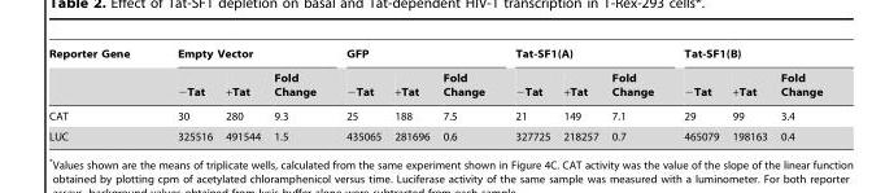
<table><thead><tr><td rowspan="2">Reporter Gene</td><td colspan="3">Empty Vector</td><td colspan="3">GFP</td><td colspan="3">Tat-SF1(A)</td><td colspan="3">Tat-SF1(B)</td></tr><tr><td>−Tat</td><td>+Tat</td><td>Fold Change</td><td>−Tat</td><td>+Tat</td><td>Fold Change</td><td>−Tat</td><td>+Tat</td><td>Fold Change</td><td>−Tat</td><td>+Tat</td><td>Fold Change</td></tr></thead><tbody><tr><td>CAT</td><td>30</td><td>280</td><td>9.3</td><td>25</td><td>188</td><td>7.5</td><td>21</td><td>149</td><td>7.1</td><td>29</td><td>99</td><td>3.4</td></tr><tr><td>LUC</td><td>325516</td><td>491544</td><td>1.5</td><td>435065</td><td>281696</td><td>0.6</td><td>327725</td><td>218257</td><td>0.7</td><td>465079</td><td>198163</td><td>0.4</td></tr></tbody></table>